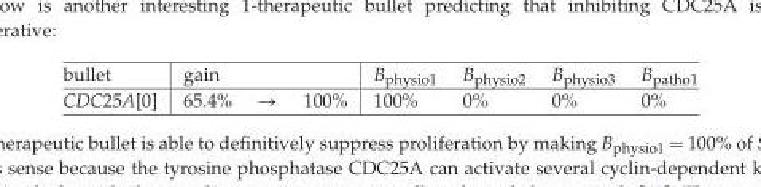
<table><thead><tr><td>bullet</td><td>gain</td><td></td><td></td><td>B<sub>physio1</sub></td><td>B<sub>physio2</sub></td><td>B<sub>physio3</sub></td><td>B<sub>patho1</sub></td></tr></thead><tbody><tr><td>CDC25A[0]</td><td>65.4%</td><td>→</td><td>100%</td><td>100%</td><td>0%</td><td>0%</td><td>0%</td></tr></tbody></table>